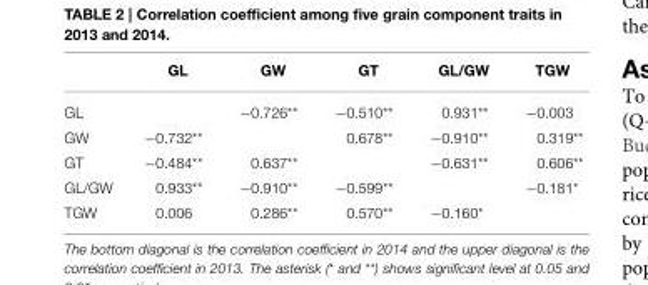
<table><thead><tr><td></td><td>GL</td><td>GW</td><td>GT</td><td>GL/GW</td><td>TGW</td></tr></thead><tbody><tr><td>GL</td><td></td><td>−0.726**</td><td>−0.510**</td><td>0.931**</td><td>−0.003</td></tr><tr><td>GW</td><td>−0.732**</td><td></td><td>0.678**</td><td>−0.910**</td><td>0.319**</td></tr><tr><td>GT</td><td>−0.484**</td><td>0.637**</td><td></td><td>−0.631**</td><td>0.606**</td></tr><tr><td>GL/GW</td><td>0.933**</td><td>−0.910**</td><td>−0.599**</td><td></td><td>−0.181*</td></tr><tr><td>TGW</td><td>0.006</td><td>0.286**</td><td>0.570**</td><td>−0.160*</td><td></td></tr></tbody></table>